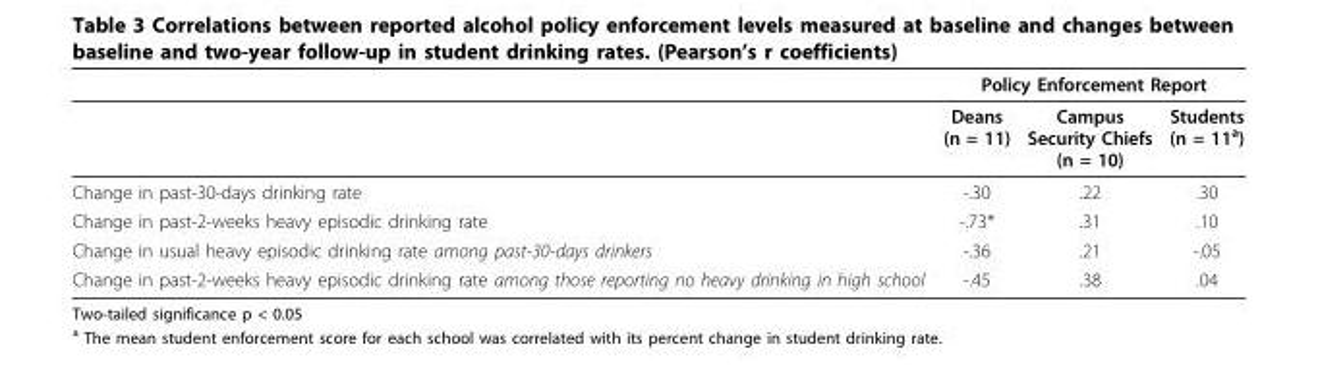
<table><thead><tr><td rowspan="2"></td><td colspan="3">Policy Enforcement Report</td></tr><tr><td>Deans (n = 11)</td><td>Campus Security Chiefs (n = 10)</td><td>Students (n = 11<sup>a</sup>)</td></tr></thead><tbody><tr><td>Change in past-30-days drinking rate</td><td>-.30</td><td>.22</td><td>.30</td></tr><tr><td>Change in past-2-weeks heavy episodic drinking rate</td><td>-.73*</td><td>.31</td><td>.10</td></tr><tr><td>Change in usual heavy episodic drinking rate among past-30-days drinkers</td><td>-.36</td><td>.21</td><td>-.05</td></tr><tr><td>Change in past-2-weeks heavy episodic drinking rate among those reporting no heavy drinking in high school</td><td>-.45</td><td>.38</td><td>.04</td></tr></tbody></table>